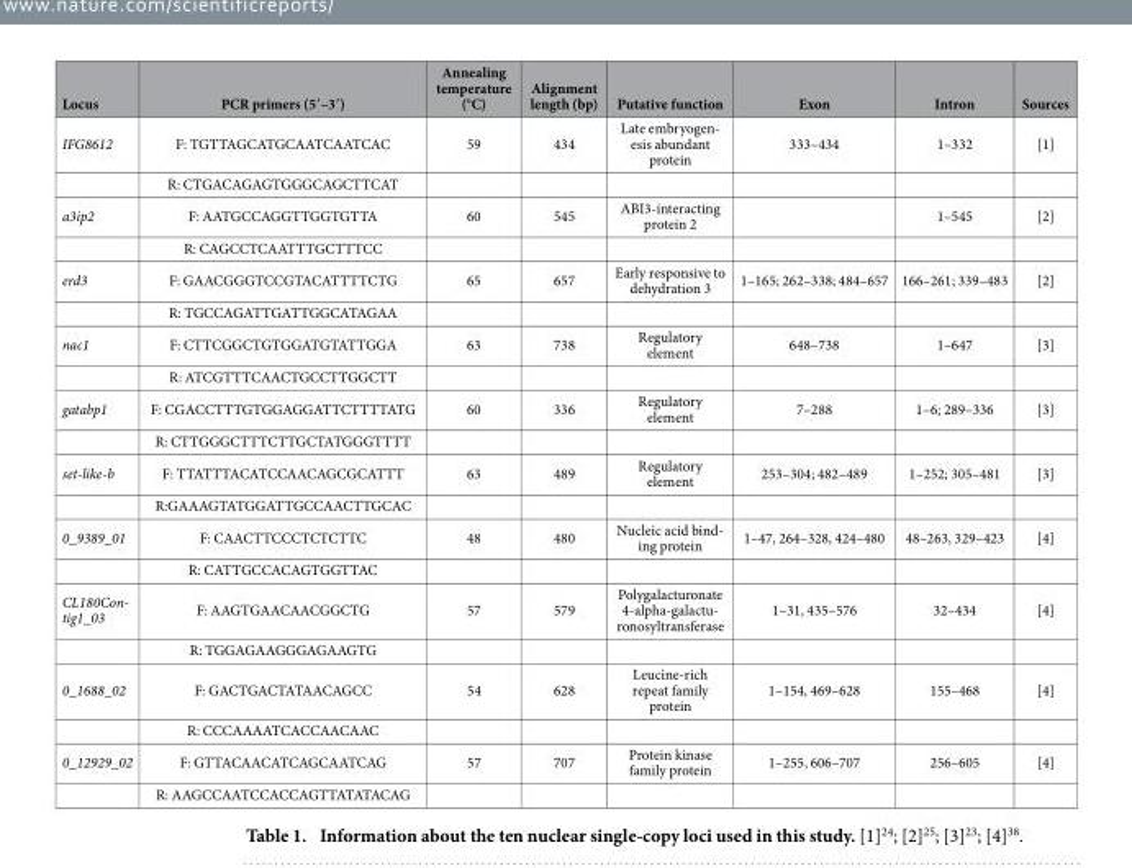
<table><thead><tr><td>Locus</td><td>PCR primers (5′–3′)</td><td>Annealing temperature (°C)</td><td>Alignment length (bp)</td><td>Putative function</td><td>Exon</td><td>Intron</td><td>Sources</td></tr></thead><tbody><tr><td rowspan="2">IFG8612</td><td>F: TGTTAGCATGCAATCAATCAC</td><td>59</td><td>434</td><td>Late embryogen- esis abundant protein</td><td>333–434</td><td>1–332</td><td>[1]</td></tr><tr><td>R: CTGACAGAGTGGGCAGCTTCAT</td><td></td><td></td><td></td><td></td><td></td><td></td></tr><tr><td rowspan="2">a3ip2</td><td>F: AATGCCAGGTTGGTGTTA</td><td>60</td><td>545</td><td>ABI3-interacting protein 2</td><td></td><td>1–545</td><td>[2]</td></tr><tr><td>R: CAGCCTCAATTTGCTTTCC</td><td></td><td></td><td></td><td></td><td></td><td></td></tr><tr><td rowspan="2">erd3</td><td>F: GAACGGGTCCGTACATTTTCTG</td><td>65</td><td>657</td><td>Early responsive to dehydration 3</td><td>1–165; 262–338; 484–657</td><td>166–261; 339–483</td><td>[2]</td></tr><tr><td>R: TGCCAGATTGATTGGCATAGAA</td><td></td><td></td><td></td><td></td><td></td><td></td></tr><tr><td rowspan="2">nac1</td><td>F: CTTCGGCTGTGGATGTATTGGA</td><td>63</td><td>738</td><td>Regulatory element</td><td>648–738</td><td>1–647</td><td>[3]</td></tr><tr><td>R: ATCGTTTCAACTGCCTTGGCTT</td><td></td><td></td><td></td><td></td><td></td><td></td></tr><tr><td rowspan="2">gatabp1</td><td>F: CGACCTTTGTGGAGGATTCTTTTATG</td><td>60</td><td>336</td><td>Regulatory element</td><td>7–288</td><td>1–6; 289–336</td><td>[3]</td></tr><tr><td>R: CTTGGGCTTTCTTGCTATGGGTTTT</td><td></td><td></td><td></td><td></td><td></td><td></td></tr><tr><td rowspan="2">set-like-b</td><td>F: TTATTTACATCCAACAGCGCATTT</td><td>63</td><td>489</td><td>Regulatory element</td><td>253–304; 482–489</td><td>1–252; 305–481</td><td>[3]</td></tr><tr><td>R:GAAAGTATGGATTGCCAACTTGCAC</td><td></td><td></td><td></td><td></td><td></td><td></td></tr><tr><td rowspan="2">0_9389_01</td><td>F: CAACTTCCCTCTCTTC</td><td>48</td><td>480</td><td>Nucleic acid bind- ing protein</td><td>1–47, 264–328, 424–480</td><td>48–263, 329–423</td><td>[4]</td></tr><tr><td>R: CATTGCCACAGTGGTTAC</td><td></td><td></td><td></td><td></td><td></td><td></td></tr><tr><td rowspan="2">CL180Con- tig1_03</td><td>F: AAGTGAACAACGGCTG</td><td>57</td><td>579</td><td>Polygalacturonate 4-alpha-galactu- ronosyltransferase</td><td>1–31, 435–576</td><td>32–434</td><td>[4]</td></tr><tr><td>R: TGGAGAAGGGAGAAGTG</td><td></td><td></td><td></td><td></td><td></td><td></td></tr><tr><td rowspan="2">0_1688_02</td><td>F: GACTGACTATAACAGCC</td><td>54</td><td>628</td><td>Leucine-rich repeat family protein</td><td>1–154, 469–628</td><td>155–468</td><td>[4]</td></tr><tr><td>R: CCCAAAATCACCAACAAC</td><td></td><td></td><td></td><td></td><td></td><td></td></tr><tr><td rowspan="2">0_12929_02</td><td>F: GTTACAACATCAGCAATCAG</td><td>57</td><td>707</td><td>Protein kinase family protein</td><td>1–255, 606–707</td><td>256–605</td><td>[4]</td></tr><tr><td>R: AAGCCAATCCACCAGTTATATACAG</td><td></td><td></td><td></td><td></td><td></td><td></td></tr></tbody></table>